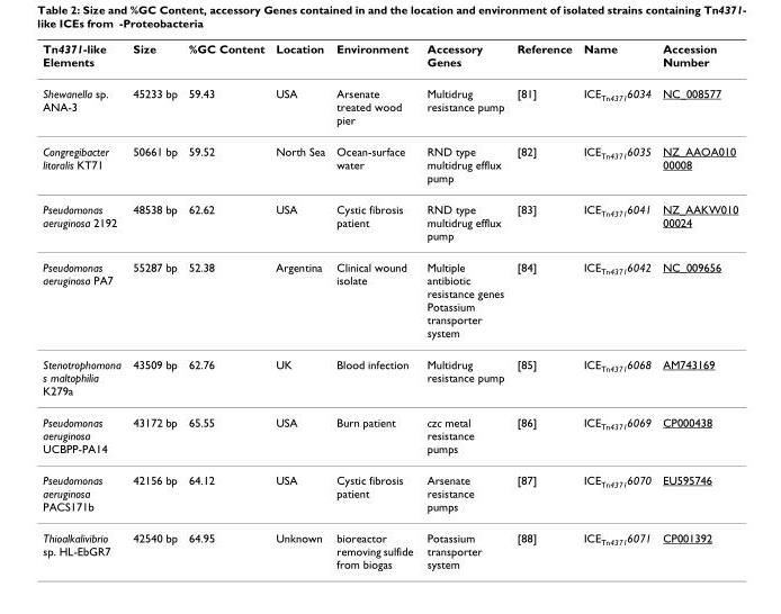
<table><thead><tr><td>Tn4371-like Elements</td><td>Size</td><td>%GC Content</td><td>Location</td><td>Environment</td><td>Accessory Genes</td><td>Reference</td><td>Name</td><td>Accession Number</td></tr></thead><tbody><tr><td>Shewanella sp. ANA-3</td><td>45233 bp</td><td>59.43</td><td>USA</td><td>Arsenate treated wood pier</td><td>Multidrug resistance pump</td><td>[81]</td><td>ICE<sub>Tn4371</sub>6034</td><td>NC_008577</td></tr><tr><td>Congregibacter litoralis KT71</td><td>50661 bp</td><td>59.52</td><td>North Sea</td><td>Ocean-surface water</td><td>RND type multidrug efflux pump</td><td>[82]</td><td>ICE<sub>Tn4371</sub>6035</td><td>NZ_AAOA010 00008</td></tr><tr><td>Pseudomonas aeruginosa 2192</td><td>48538 bp</td><td>62.62</td><td>USA</td><td>Cystic fibrosis patient</td><td>RND type multidrug efflux pump</td><td>[83]</td><td>ICE<sub>Tn4371</sub>6041</td><td>NZ_AAKW010 00024</td></tr><tr><td>Pseudomonas aeruginosa PA7</td><td>55287 bp</td><td>52.38</td><td>Argentina</td><td>Clinical wound isolate</td><td>Multiple antibiotic resistance genes Potassium transporter system</td><td>[84]</td><td>ICE<sub>Tn4371</sub>6042</td><td>NC_009656</td></tr><tr><td>Stenotrophomona s maltophilia K279a</td><td>43509 bp</td><td>62.76</td><td>UK</td><td>Blood infection</td><td>Multidrug resistance pump</td><td>[85]</td><td>ICE<sub>Tn4371</sub>6068</td><td>AM743169</td></tr><tr><td>Pseudomonas aeruginosa UCBPP-PA14</td><td>43172 bp</td><td>65.55</td><td>USA</td><td>Burn patient</td><td>czc metal resistance pumps</td><td>[86]</td><td>ICE<sub>Tn4371</sub>6069</td><td>CP000438</td></tr><tr><td>Pseudomonas aeruginosa PACS171b</td><td>42156 bp</td><td>64.12</td><td>USA</td><td>Cystic fibrosis patient</td><td>Arsenate resistance pumps</td><td>[87]</td><td>ICE<sub>Tn4371</sub>6070</td><td>EU595746</td></tr><tr><td>Thioalkalivibrio sp. HL-EbGR7</td><td>42540 bp</td><td>64.95</td><td>Unknown</td><td>bioreactor removing sulfide from biogas</td><td>Potassium transporter system</td><td>[88]</td><td>ICE<sub>Tn4371</sub>6071</td><td>CP001392</td></tr></tbody></table>